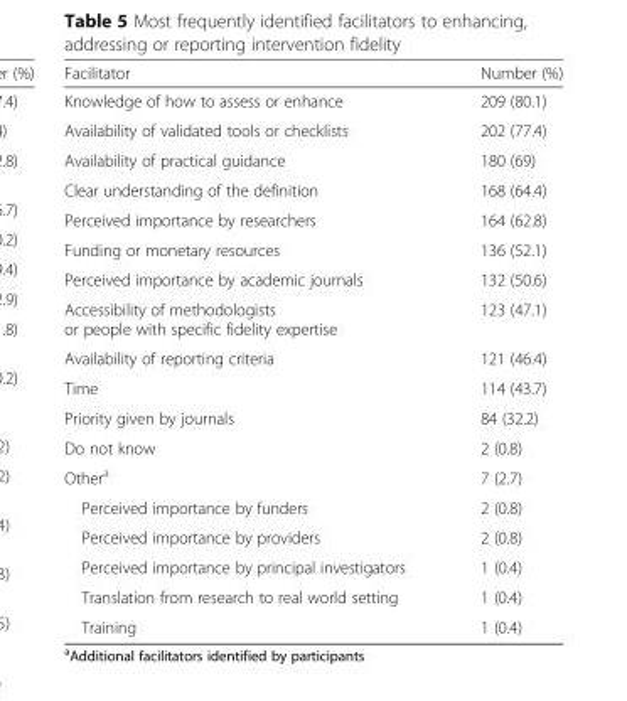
<table><thead><tr><td>Facilitator</td><td>Number (%)</td></tr></thead><tbody><tr><td>Knowledge of how to assess or enhance</td><td>209 (80.1)</td></tr><tr><td>Availability of validated tools or checklists</td><td>202 (77.4)</td></tr><tr><td>Availability of practical guidance</td><td>180 (69)</td></tr><tr><td>Clear understanding of the definition</td><td>168 (64.4)</td></tr><tr><td>Perceived importance by researchers</td><td>164 (62.8)</td></tr><tr><td>Funding or monetary resources</td><td>136 (52.1)</td></tr><tr><td>Perceived importance by academic journals</td><td>132 (50.6)</td></tr><tr><td>Accessibility of methodologists or people with specific fidelity expertise</td><td>123 (47.1)</td></tr><tr><td>Availability of reporting criteria</td><td>121 (46.4)</td></tr><tr><td>Time</td><td>114 (43.7)</td></tr><tr><td>Priority given by journals</td><td>84 (32.2)</td></tr><tr><td>Do not know</td><td>2 (0.8)</td></tr><tr><td>Other<sup>a</sup></td><td>7 (2.7)</td></tr><tr><td>Perceived importance by funders</td><td>2 (0.8)</td></tr><tr><td>Perceived importance by providers</td><td>2 (0.8)</td></tr><tr><td>Perceived importance by principal investigators</td><td>1 (0.4)</td></tr><tr><td>Translation from research to real world setting</td><td>1 (0.4)</td></tr><tr><td>Training</td><td>1 (0.4)</td></tr></tbody></table>